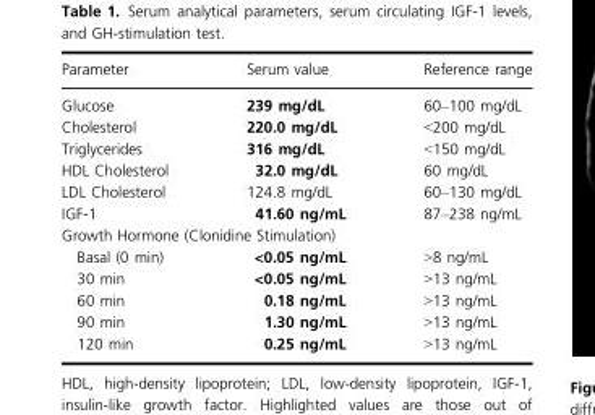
<table><thead><tr><td>Parameter</td><td>Serum value</td><td>Reference range</td></tr></thead><tbody><tr><td>Glucose</td><td>239 mg/dL</td><td>60–100 mg/dL</td></tr><tr><td>Cholesterol</td><td>220.0 mg/dL</td><td>&lt;200 mg/dL</td></tr><tr><td>Triglycerides</td><td>316 mg/dL</td><td>&lt;150 mg/dL</td></tr><tr><td>HDL Cholesterol</td><td>32.0 mg/dL</td><td>60 mg/dL</td></tr><tr><td>LDL Cholesterol</td><td>124.8 mg/dL</td><td>60–130 mg/dL</td></tr><tr><td>IGF-1</td><td>41.60 ng/mL</td><td>87–238 ng/mL</td></tr><tr><td colspan="3">Growth Hormone (Clonidine Stimulation)</td></tr><tr><td>Basal (0 min)</td><td>&lt;0.05 ng/mL</td><td>&gt;8 ng/mL</td></tr><tr><td>30 min</td><td>&lt;0.05 ng/mL</td><td>&gt;13 ng/mL</td></tr><tr><td>60 min</td><td>0.18 ng/mL</td><td>&gt;13 ng/mL</td></tr><tr><td>90 min</td><td>1.30 ng/mL</td><td>&gt;13 ng/mL</td></tr><tr><td>120 min</td><td>0.25 ng/mL</td><td>&gt;13 ng/mL</td></tr></tbody></table>